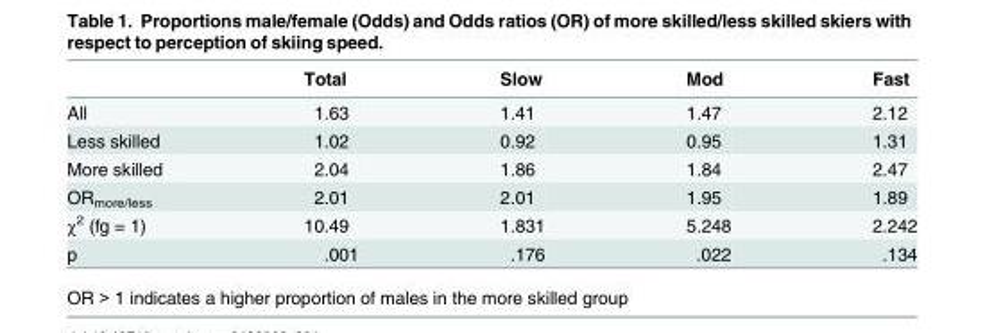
<table><thead><tr><td></td><td>Total</td><td>Slow</td><td>Mod</td><td>Fast</td></tr></thead><tbody><tr><td>All</td><td>1.63</td><td>1.41</td><td>1.47</td><td>2.12</td></tr><tr><td>Less skilled</td><td>1.02</td><td>0.92</td><td>0.95</td><td>1.31</td></tr><tr><td>More skilled</td><td>2.04</td><td>1.86</td><td>1.84</td><td>2.47</td></tr><tr><td>OR<sub>more/less</sub></td><td>2.01</td><td>2.01</td><td>1.95</td><td>1.89</td></tr><tr><td>χ<sup>2</sup> (fg = 1)</td><td>10.49</td><td>1.831</td><td>5.248</td><td>2.242</td></tr><tr><td>p</td><td>.001</td><td>.176</td><td>.022</td><td>.134</td></tr></tbody></table>